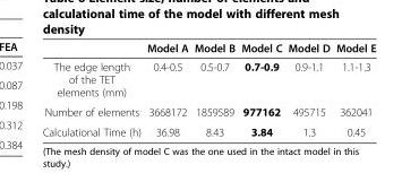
<table><thead><tr><td></td><td>Model A</td><td>Model B</td><td>Model C</td><td>Model D</td><td>Model E</td></tr></thead><tbody><tr><td>The edge length of the TET elements (mm)</td><td>0.4-0.5</td><td>0.5-0.7</td><td>0.7-0.9</td><td>0.9-1.1</td><td>1.1-1.3</td></tr><tr><td>Number of elements</td><td>3668172</td><td>1859589</td><td>977162</td><td>495715</td><td>362041</td></tr><tr><td>Calculational Time (h)</td><td>36.98</td><td>8.43</td><td>3.84</td><td>1.3</td><td>0.45</td></tr></tbody></table>